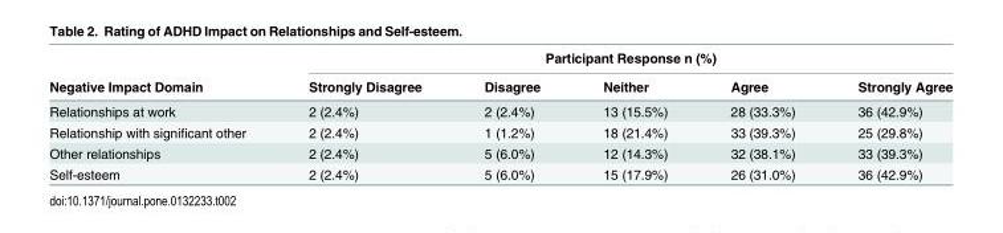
<table><thead><tr><td rowspan="2">Negative Impact Domain</td><td colspan="5">Participant Response n (%)</td></tr><tr><td>Strongly Disagree</td><td>Disagree</td><td>Neither</td><td>Agree</td><td>Strongly Agree</td></tr></thead><tbody><tr><td>Relationships at work</td><td>2 (2.4%)</td><td>2 (2.4%)</td><td>13 (15.5%)</td><td>28 (33.3%)</td><td>36 (42.9%)</td></tr><tr><td>Relationship with significant other</td><td>2 (2.4%)</td><td>1 (1.2%)</td><td>18 (21.4%)</td><td>33 (39.3%)</td><td>25 (29.8%)</td></tr><tr><td>Other relationships</td><td>2 (2.4%)</td><td>5 (6.0%)</td><td>12 (14.3%)</td><td>32 (38.1%)</td><td>33 (39.3%)</td></tr><tr><td>Self-esteem</td><td>2 (2.4%)</td><td>5 (6.0%)</td><td>15 (17.9%)</td><td>26 (31.0%)</td><td>36 (42.9%)</td></tr></tbody></table>